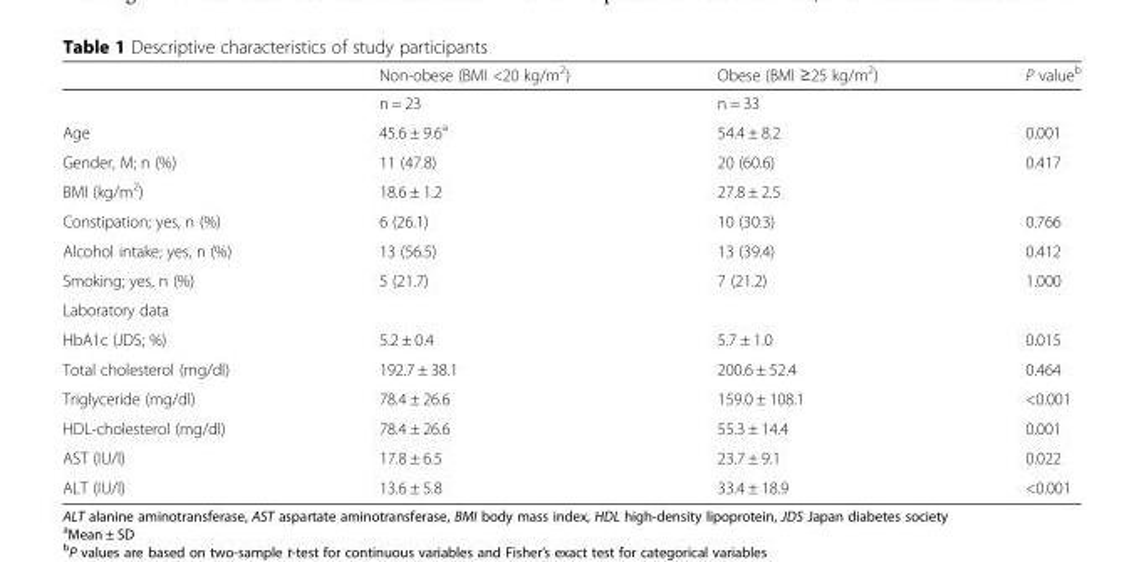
<table><thead><tr><td></td><td>Non-obese (BMI &lt;20 kg/m<sup>2</sup>)</td><td>Obese (BMI ≥25 kg/m<sup>2</sup>)</td><td>P value<sup>b</sup></td></tr></thead><tbody><tr><td></td><td>n = 23</td><td>n = 33</td><td></td></tr><tr><td>Age</td><td>45.6 ± 9.6<sup>a</sup></td><td>54.4 ± 8.2</td><td>0.001</td></tr><tr><td>Gender, M; n (%)</td><td>11 (47.8)</td><td>20 (60.6)</td><td>0.417</td></tr><tr><td>BMI (kg/m<sup>2</sup>)</td><td>18.6 ± 1.2</td><td>27.8 ± 2.5</td><td></td></tr><tr><td>Constipation; yes, n (%)</td><td>6 (26.1)</td><td>10 (30.3)</td><td>0.766</td></tr><tr><td>Alcohol intake; yes, n (%)</td><td>13 (56.5)</td><td>13 (39.4)</td><td>0.412</td></tr><tr><td>Smoking; yes, n (%)</td><td>5 (21.7)</td><td>7 (21.2)</td><td>1.000</td></tr><tr><td colspan="4">Laboratory data</td></tr><tr><td>HbA1c (JDS; %)</td><td>5.2 ± 0.4</td><td>5.7 ± 1.0</td><td>0.015</td></tr><tr><td>Total cholesterol (mg/dl)</td><td>192.7 ± 38.1</td><td>200.6 ± 52.4</td><td>0.464</td></tr><tr><td>Triglyceride (mg/dl)</td><td>78.4 ± 26.6</td><td>159.0 ± 108.1</td><td>&lt;0.001</td></tr><tr><td>HDL-cholesterol (mg/dl)</td><td>78.4 ± 26.6</td><td>55.3 ± 14.4</td><td>0.001</td></tr><tr><td>AST (IU/l)</td><td>17.8 ± 6.5</td><td>23.7 ± 9.1</td><td>0.022</td></tr><tr><td>ALT (IU/l)</td><td>13.6 ± 5.8</td><td>33.4 ± 18.9</td><td>&lt;0.001</td></tr></tbody></table>